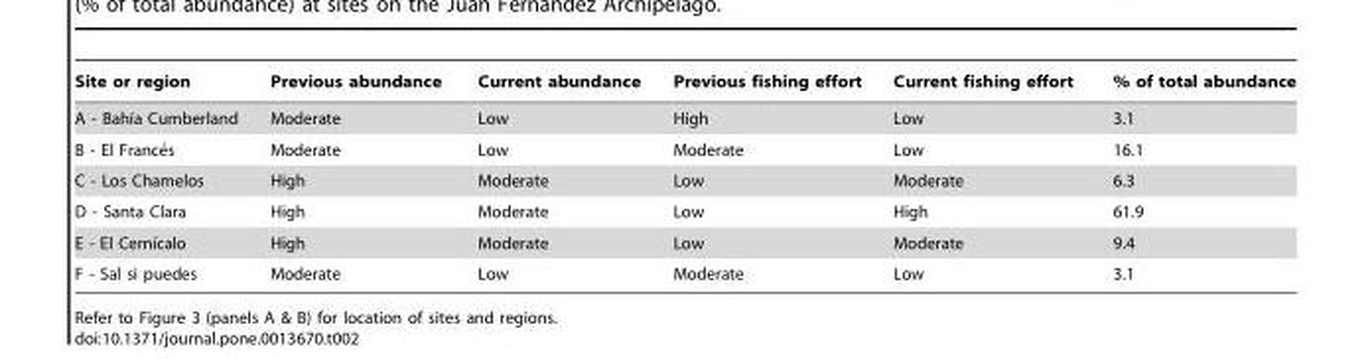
<table><thead><tr><td>Site or region</td><td>Previous abundance</td><td>Current abundance</td><td>Previous fishing effort</td><td>Current fishing effort</td><td>% of total abundance</td></tr></thead><tbody><tr><td>A - Bahı´a Cumberland</td><td>Moderate</td><td>Low</td><td>High</td><td>Low</td><td>3.1</td></tr><tr><td>B - El France´s</td><td>Moderate</td><td>Low</td><td>Moderate</td><td>Low</td><td>16.1</td></tr><tr><td>C - Los Chamelos</td><td>High</td><td>Moderate</td><td>Low</td><td>Moderate</td><td>6.3</td></tr><tr><td>D - Santa Clara</td><td>High</td><td>Moderate</td><td>Low</td><td>High</td><td>61.9</td></tr><tr><td>E - El Cernı´calo</td><td>High</td><td>Moderate</td><td>Low</td><td>Moderate</td><td>9.4</td></tr><tr><td>F - Sal si puedes</td><td>Moderate</td><td>Low</td><td>Moderate</td><td>Low</td><td>3.1</td></tr></tbody></table>